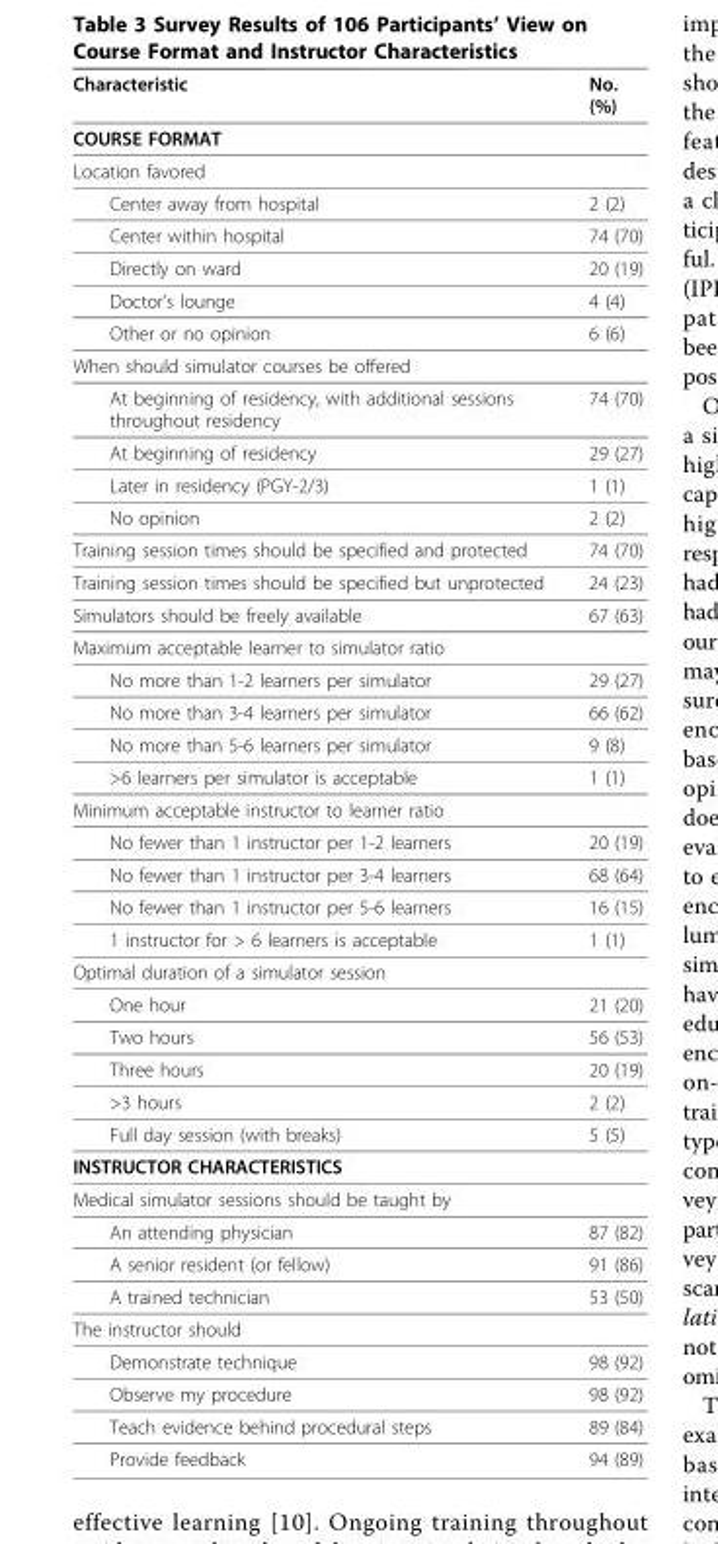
<table><thead><tr><td>Characteristic</td><td>No. (%)</td></tr></thead><tbody><tr><td colspan="2">COURSE FORMAT</td></tr><tr><td colspan="2">Location favored</td></tr><tr><td>Center away from hospital</td><td>2 (2)</td></tr><tr><td>Center within hospital</td><td>74 (70)</td></tr><tr><td>Directly on ward</td><td>20 (19)</td></tr><tr><td>Doctor’s lounge</td><td>4 (4)</td></tr><tr><td>Other or no opinion</td><td>6 (6)</td></tr><tr><td colspan="2">When should simulator courses be offered</td></tr><tr><td>At beginning of residency, with additional sessions throughout residency</td><td>74 (70)</td></tr><tr><td>At beginning of residency</td><td>29 (27)</td></tr><tr><td>Later in residency (PGY-2/3)</td><td>1 (1)</td></tr><tr><td>No opinion</td><td>2 (2)</td></tr><tr><td>Training session times should be specified and protected</td><td>74 (70)</td></tr><tr><td>Training session times should be specified but unprotected</td><td>24 (23)</td></tr><tr><td>Simulators should be freely available</td><td>67 (63)</td></tr><tr><td colspan="2">Maximum acceptable learner to simulator ratio</td></tr><tr><td>No more than 1-2 learners per simulator</td><td>29 (27)</td></tr><tr><td>No more than 3-4 learners per simulator</td><td>66 (62)</td></tr><tr><td>No more than 5-6 learners per simulator</td><td>9 (8)</td></tr><tr><td>&gt;6 learners per simulator is acceptable</td><td>1 (1)</td></tr><tr><td colspan="2">Minimum acceptable instructor to learner ratio</td></tr><tr><td>No fewer than 1 instructor per 1-2 learners</td><td>20 (19)</td></tr><tr><td>No fewer than 1 instructor per 3-4 learners</td><td>68 (64)</td></tr><tr><td>No fewer than 1 instructor per 5-6 learners</td><td>16 (15)</td></tr><tr><td>1 instructor for &gt; 6 learners is acceptable</td><td>1 (1)</td></tr><tr><td colspan="2">Optimal duration of a simulator session</td></tr><tr><td>One hour</td><td>21 (20)</td></tr><tr><td>Two hours</td><td>56 (53)</td></tr><tr><td>Three hours</td><td>20 (19)</td></tr><tr><td>&gt;3 hours</td><td>2 (2)</td></tr><tr><td>Full day session (with breaks)</td><td>5 (5)</td></tr><tr><td colspan="2">INSTRUCTOR CHARACTERISTICS</td></tr><tr><td colspan="2">Medical simulator sessions should be taught by</td></tr><tr><td>An attending physician</td><td>87 (82)</td></tr><tr><td>A senior resident (or fellow)</td><td>91 (86)</td></tr><tr><td>A trained technician</td><td>53 (50)</td></tr><tr><td colspan="2">The instructor should</td></tr><tr><td>Demonstrate technique</td><td>98 (92)</td></tr><tr><td>Observe my procedure</td><td>98 (92)</td></tr><tr><td>Teach evidence behind procedural steps</td><td>89 (84)</td></tr><tr><td>Provide feedback</td><td>94 (89)</td></tr></tbody></table>